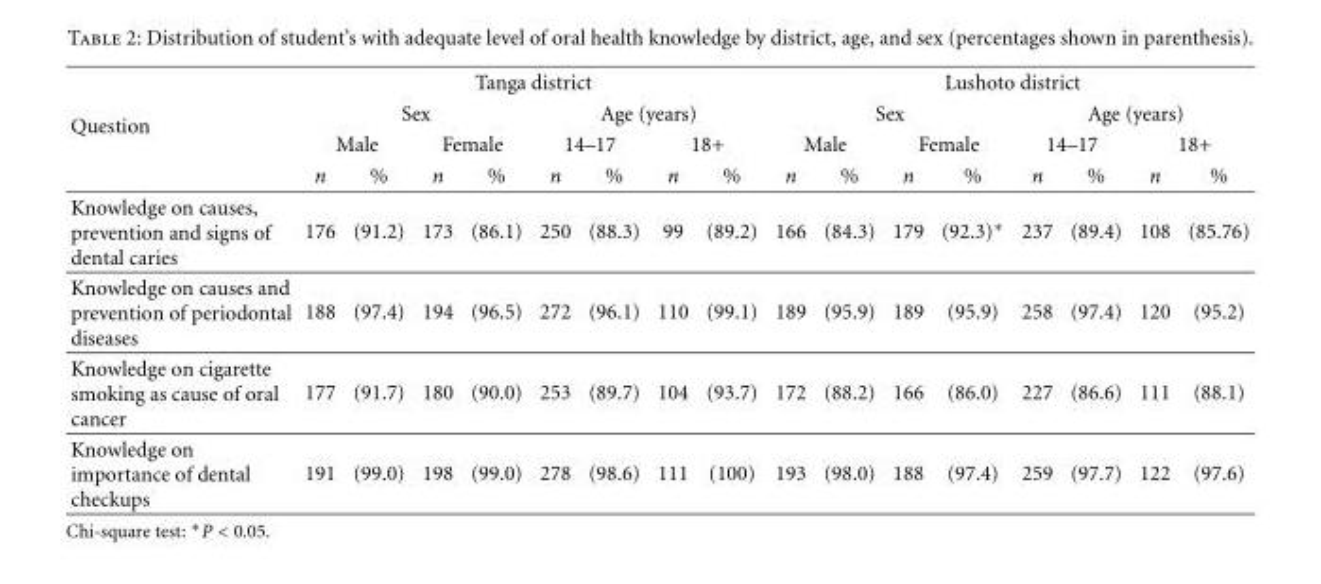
<table><tbody><tr><td rowspan="4">Question</td><td colspan="8">Tanga district</td><td colspan="8">Lushoto district</td></tr><tr><td colspan="4">Sex</td><td colspan="4">Age (years)</td><td colspan="4">Sex</td><td colspan="4">Age (years)</td></tr><tr><td colspan="2">Male</td><td colspan="2">Female</td><td colspan="2">14–17</td><td colspan="2">18+</td><td colspan="2">Male</td><td colspan="2">Female</td><td colspan="2">14–17</td><td colspan="2">18+</td></tr><tr><td>n</td><td>%</td><td>n</td><td>%</td><td>n</td><td>%</td><td>n</td><td>%</td><td>n</td><td>%</td><td>n</td><td>%</td><td>n</td><td>%</td><td>n</td><td>%</td></tr><tr><td>Knowledge on causes, prevention and signs of dental caries</td><td>176</td><td>(91.2)</td><td>173</td><td>(86.1)</td><td>250</td><td>(88.3)</td><td>99</td><td>(89.2)</td><td>166</td><td>(84.3)</td><td>179</td><td>(92.3)∗</td><td>237</td><td>(89.4)</td><td>108</td><td>(85.76)</td></tr><tr><td>Knowledge on causes and prevention of periodontal diseases</td><td>188</td><td>(97.4)</td><td>194</td><td>(96.5)</td><td>272</td><td>(96.1)</td><td>110</td><td>(99.1)</td><td>189</td><td>(95.9)</td><td>189</td><td>(95.9)</td><td>258</td><td>(97.4)</td><td>120</td><td>(95.2)</td></tr><tr><td>Knowledge on cigarette smoking as cause of oral cancer</td><td>177</td><td>(91.7)</td><td>180</td><td>(90.0)</td><td>253</td><td>(89.7)</td><td>104</td><td>(93.7)</td><td>172</td><td>(88.2)</td><td>166</td><td>(86.0)</td><td>227</td><td>(86.6)</td><td>111</td><td>(88.1)</td></tr><tr><td>Knowledge on importance of dental checkups</td><td>191</td><td>(99.0)</td><td>198</td><td>(99.0)</td><td>278</td><td>(98.6)</td><td>111</td><td>(100)</td><td>193</td><td>(98.0)</td><td>188</td><td>(97.4)</td><td>259</td><td>(97.7)</td><td>122</td><td>(97.6)</td></tr></tbody></table>